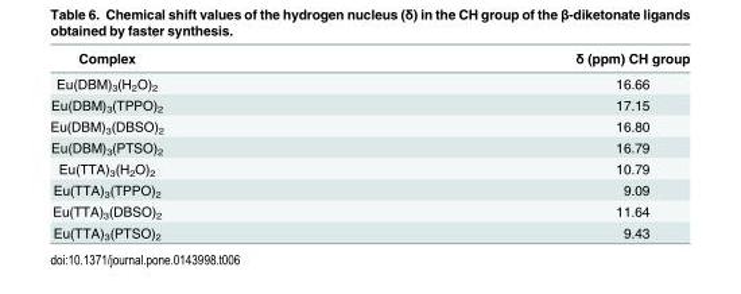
<table><thead><tr><td>Complex</td><td>δ (ppm) CH group</td></tr></thead><tbody><tr><td>Eu(DBM)<sub>3</sub>(H<sub>2</sub>O)<sub>2</sub></td><td>16.66</td></tr><tr><td>Eu(DBM)<sub>3</sub>(TPPO)<sub>2</sub></td><td>17.15</td></tr><tr><td>Eu(DBM)<sub>3</sub>(DBSO)<sub>2</sub></td><td>16.80</td></tr><tr><td>Eu(DBM)<sub>3</sub>(PTSO)<sub>2</sub></td><td>16.79</td></tr><tr><td>Eu(TTA)<sub>3</sub>(H<sub>2</sub>O)<sub>2</sub></td><td>10.79</td></tr><tr><td>Eu(TTA)<sub>3</sub>(TPPO)<sub>2</sub></td><td>9.09</td></tr><tr><td>Eu(TTA)<sub>3</sub>(DBSO)<sub>2</sub></td><td>11.64</td></tr><tr><td>Eu(TTA)<sub>3</sub>(PTSO)<sub>2</sub></td><td>9.43</td></tr></tbody></table>